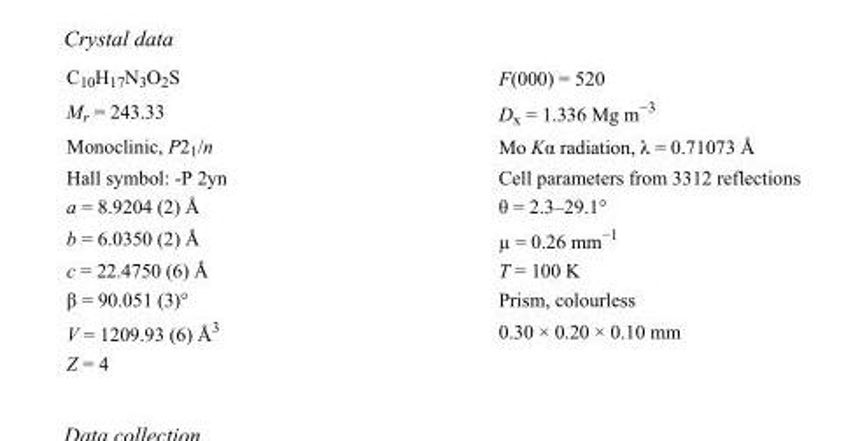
<table><tbody><tr><td>C<sub>10</sub>H<sub>17</sub>N<sub>3</sub>O<sub>2</sub>S</td><td>F(000) = 520</td></tr><tr><td>M<sub>r</sub> = 243.33</td><td>D<sub>x</sub> = 1.336 Mg m<sup>−3</sup></td></tr><tr><td>Monoclinic, P2<sub>1</sub>/n</td><td>Mo Kα radiation, λ = 0.71073 Å</td></tr><tr><td>Hall symbol: -P 2yn</td><td>Cell parameters from 3312 reflections</td></tr><tr><td>a = 8.9204 (2) Å</td><td>θ = 2.3–29.1°</td></tr><tr><td>b = 6.0350 (2) Å</td><td>µ = 0.26 mm<sup>−1</sup></td></tr><tr><td>c = 22.4750 (6) Å</td><td>T = 100 K</td></tr><tr><td>β = 90.051 (3)°</td><td>Prism, colourless</td></tr><tr><td>V = 1209.93 (6) Å<sup>3</sup></td><td>0.30 × 0.20 × 0.10 mm</td></tr><tr><td>Z = 4</td><td></td></tr></tbody></table>